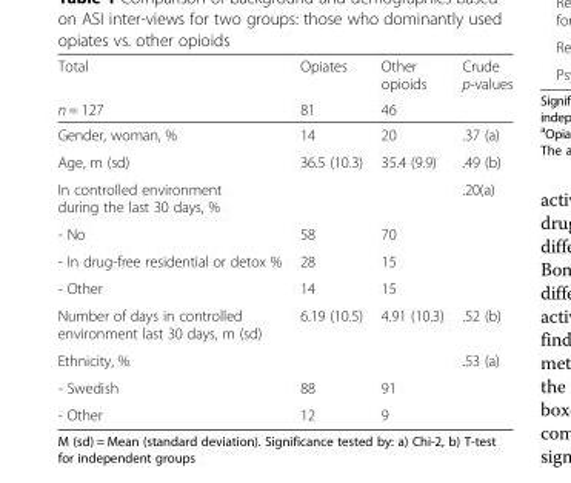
<table><thead><tr><td rowspan="2">Total n = 127</td><td rowspan="2">Opiates 81</td><td rowspan="2">Other opioids 46</td><td rowspan="2">Crude p-values</td></tr><tr></tr></thead><tbody><tr><td>Gender, woman, %</td><td>14</td><td>20</td><td>.37 (a)</td></tr><tr><td>Age, m (sd)</td><td>36.5 (10.3)</td><td>35.4 (9.9)</td><td>.49 (b)</td></tr><tr><td>In controlled environment during the last 30 days, %</td><td></td><td></td><td>.20(a)</td></tr><tr><td>- No</td><td>58</td><td>70</td><td></td></tr><tr><td>- In drug-free residential or detox %</td><td>28</td><td>15</td><td></td></tr><tr><td>- Other</td><td>14</td><td>15</td><td></td></tr><tr><td>Number of days in controlled environment last 30 days, m (sd)</td><td>6.19 (10.5)</td><td>4.91 (10.3)</td><td>.52 (b)</td></tr><tr><td>Ethnicity, %</td><td></td><td></td><td>.53 (a)</td></tr><tr><td>- Swedish</td><td>88</td><td>91</td><td></td></tr><tr><td>- Other</td><td>12</td><td>9</td><td></td></tr></tbody></table>